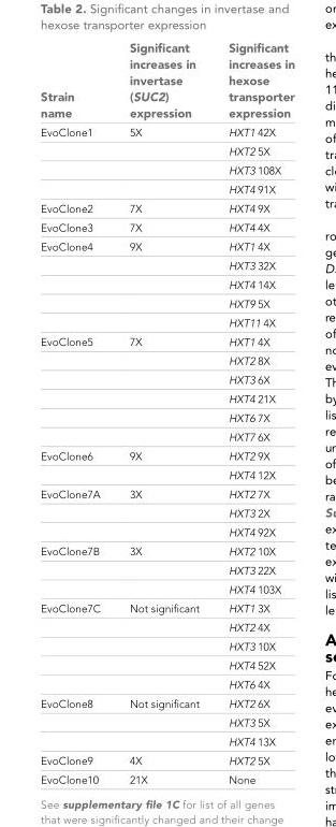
<table><thead><tr><td>Strain name</td><td>Significant increases in invertase (SUC2) expression</td><td>Significant increases in hexose transporter expression</td></tr></thead><tbody><tr><td rowspan="4">EvoClone1</td><td>5X</td><td>HXT1 42X</td></tr><tr><td></td><td>HXT2 5X</td></tr><tr><td></td><td>HXT3 108X</td></tr><tr><td></td><td>HXT4 91X</td></tr><tr><td>EvoClone2</td><td>7X</td><td>HXT4 9X</td></tr><tr><td>EvoClone3</td><td>7X</td><td>HXT4 4X</td></tr><tr><td rowspan="5">EvoClone4</td><td>9X</td><td>HXT1 4X</td></tr><tr><td></td><td>HXT3 32X</td></tr><tr><td></td><td>HXT4 14X</td></tr><tr><td></td><td>HXT9 5X</td></tr><tr><td></td><td>HXT11 4X</td></tr><tr><td rowspan="6">EvoClone5</td><td>7X</td><td>HXT1 4X</td></tr><tr><td></td><td>HXT2 8X</td></tr><tr><td></td><td>HXT3 6X</td></tr><tr><td></td><td>HXT4 21X</td></tr><tr><td></td><td>HXT6 7X</td></tr><tr><td></td><td>HXT7 6X</td></tr><tr><td rowspan="2">EvoClone6</td><td>9X</td><td>HXT2 9X</td></tr><tr><td></td><td>HXT4 12X</td></tr><tr><td rowspan="3">EvoClone7A</td><td>3X</td><td>HXT2 7X</td></tr><tr><td></td><td>HXT3 2X</td></tr><tr><td></td><td>HXT4 92X</td></tr><tr><td rowspan="3">EvoClone7B</td><td>3X</td><td>HXT2 10X</td></tr><tr><td></td><td>HXT3 22X</td></tr><tr><td></td><td>HXT4 103X</td></tr><tr><td rowspan="5">EvoClone7C</td><td>Not significant</td><td>HXT1 3X</td></tr><tr><td></td><td>HXT2 4X</td></tr><tr><td></td><td>HXT3 10X</td></tr><tr><td></td><td>HXT4 52X</td></tr><tr><td></td><td>HXT6 4X</td></tr><tr><td rowspan="3">EvoClone8</td><td>Not significant</td><td>HXT2 6X</td></tr><tr><td></td><td>HXT3 5X</td></tr><tr><td></td><td>HXT4 13X</td></tr><tr><td>EvoClone9</td><td>4X</td><td>HXT2 5X</td></tr><tr><td>EvoClone10</td><td>21X</td><td>None</td></tr></tbody></table>